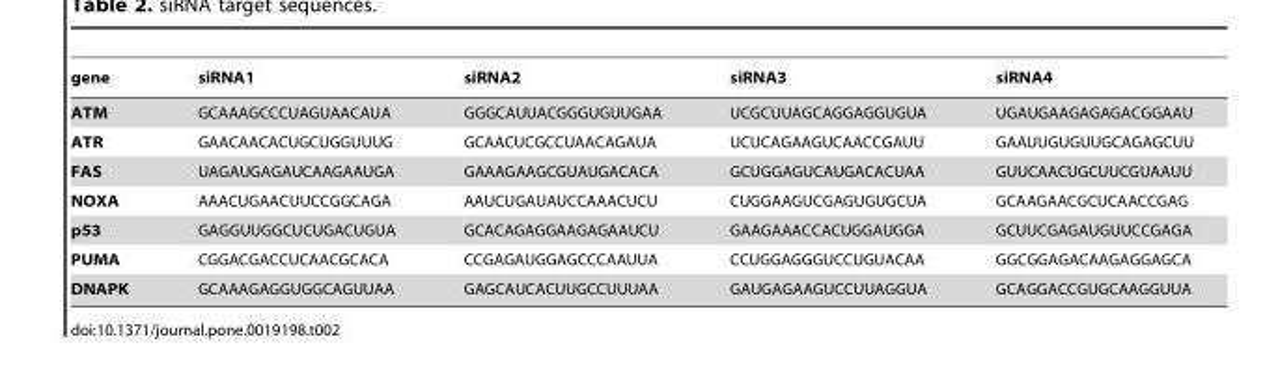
<table><thead><tr><td>gene</td><td>siRNA1</td><td>siRNA2</td><td>siRNA3</td><td>siRNA4</td></tr></thead><tbody><tr><td>ATM</td><td>GCAAAGCCCUAGUAACAUA</td><td>GGGCAUUACGGGUGUUGAA</td><td>UCGCUUAGCAGGAGGUGUA</td><td>UGAUGAAGAGAGACGGAAU</td></tr><tr><td>ATR</td><td>GAACAACACUGCUGGUUUG</td><td>GCAACUCGCCUAACAGAUA</td><td>UCUCAGAAGUCAACCGAUU</td><td>GAAUUGUGUUGCAGAGCUU</td></tr><tr><td>FAS</td><td>UAGAUGAGAUCAAGAAUGA</td><td>GAAAGAAGCGUAUGACACA</td><td>GCUGGAGUCAUGACACUAA</td><td>GUUCAACUGCUUCGUAAUU</td></tr><tr><td>NOXA</td><td>AAACUGAACUUCCGGCAGA</td><td>AAUCUGAUAUCCAAACUCU</td><td>CUGGAAGUCGAGUGUGCUA</td><td>GCAAGAACGCUCAACCGAG</td></tr><tr><td>p53</td><td>GAGGUUGGCUCUGACUGUA</td><td>GCACAGAGGAAGAGAAUCU</td><td>GAAGAAACCACUGGAUGGA</td><td>GCUUCGAGAUGUUCCGAGA</td></tr><tr><td>PUMA</td><td>CGGACGACCUCAACGCACA</td><td>CCGAGAUGGAGCCCAAUUA</td><td>CCUGGAGGGUCCUGUACAA</td><td>GGCGGAGACAAGAGGAGCA</td></tr><tr><td>DNAPK</td><td>GCAAAGAGGUGGCAGUUAA</td><td>GAGCAUCACUUGCCUUUAA</td><td>GAUGAGAAGUCCUUAGGUA</td><td>GCAGGACCGUGCAAGGUUA</td></tr></tbody></table>